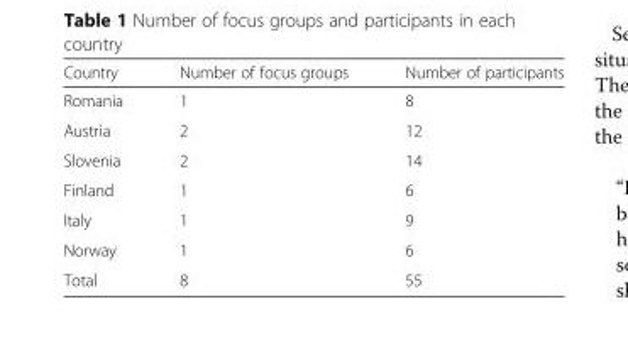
<table><thead><tr><td>Country</td><td>Number of focus groups</td><td>Number of participants</td></tr></thead><tbody><tr><td>Romania</td><td>1</td><td>8</td></tr><tr><td>Austria</td><td>2</td><td>12</td></tr><tr><td>Slovenia</td><td>2</td><td>14</td></tr><tr><td>Finland</td><td>1</td><td>6</td></tr><tr><td>Italy</td><td>1</td><td>9</td></tr><tr><td>Norway</td><td>1</td><td>6</td></tr><tr><td>Total</td><td>8</td><td>55</td></tr></tbody></table>